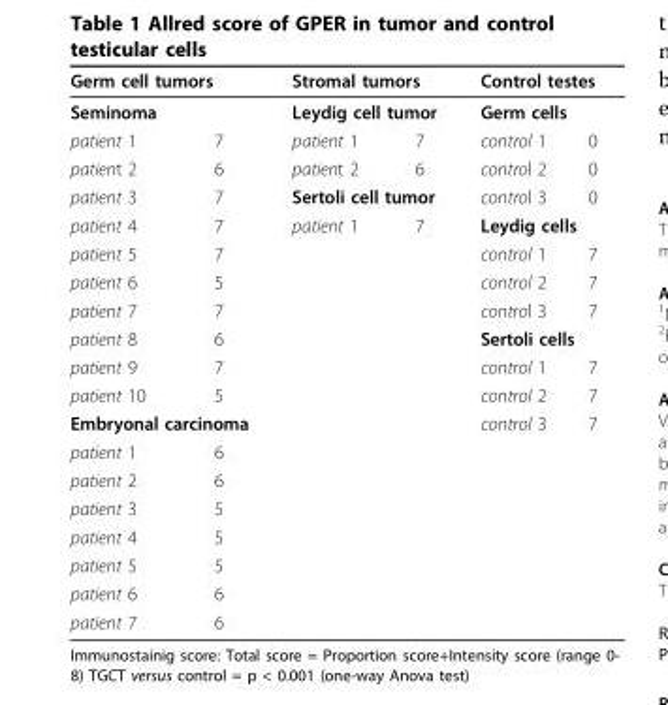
<table><thead><tr><td rowspan="2" colspan="2">Germ cell tumors Seminoma</td><td rowspan="2" colspan="2">Stromal tumors Leydig cell tumor</td><td rowspan="2" colspan="2">Control testes Germ cells</td></tr><tr></tr><tr><td>patient 1</td><td>7</td><td>patient 1</td><td>7</td><td>control 1</td><td>0</td></tr></thead><tbody><tr><td>patient 2</td><td>6</td><td>patient 2</td><td>6</td><td>control 2</td><td>0</td></tr><tr><td>patient 3</td><td>7</td><td colspan="2">Sertoli cell tumor</td><td>control 3</td><td>0</td></tr><tr><td>patient 4</td><td>7</td><td>patient 1</td><td>7</td><td colspan="2">Leydig cells</td></tr><tr><td>patient 5</td><td>7</td><td></td><td></td><td>control 1</td><td>7</td></tr><tr><td>patient 6</td><td>5</td><td></td><td></td><td>control 2</td><td>7</td></tr><tr><td>patient 7</td><td>7</td><td></td><td></td><td>control 3</td><td>7</td></tr><tr><td>patient 8</td><td>6</td><td></td><td></td><td colspan="2">Sertoli cells</td></tr><tr><td>patient 9</td><td>7</td><td></td><td></td><td>control 1</td><td>7</td></tr><tr><td>patient 10</td><td>5</td><td></td><td></td><td>control 2</td><td>7</td></tr><tr><td colspan="2">Embryonal carcinoma</td><td></td><td></td><td>control 3</td><td>7</td></tr><tr><td>patient 1</td><td>6</td><td></td><td></td><td></td><td></td></tr><tr><td>patient 2</td><td>6</td><td></td><td></td><td></td><td></td></tr><tr><td>patient 3</td><td>5</td><td></td><td></td><td></td><td></td></tr><tr><td>patient 4</td><td>5</td><td></td><td></td><td></td><td></td></tr><tr><td>patient 5</td><td>5</td><td></td><td></td><td></td><td></td></tr><tr><td>patient 6</td><td>6</td><td></td><td></td><td></td><td></td></tr><tr><td>patient 7</td><td>6</td><td></td><td></td><td></td><td></td></tr></tbody></table>